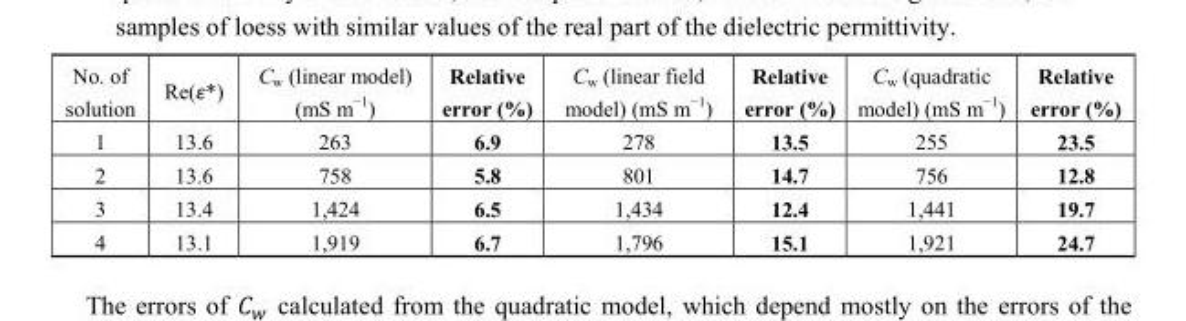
<table><thead><tr><td>No. of solution</td><td>Re(ε*)</td><td>C<sub>w</sub> (linear model) (mS m<sup>−1</sup>)</td><td>Relative error (%)</td><td>C<sub>w</sub> (linear field model) (mS m<sup>−1</sup>)</td><td>Relative error (%)</td><td>C<sub>w</sub> (quadratic model) (mS m<sup>−1</sup>)</td><td>Relative error (%)</td></tr></thead><tbody><tr><td>1</td><td>13.6</td><td>263</td><td>6.9</td><td>278</td><td>13.5</td><td>255</td><td>23.5</td></tr><tr><td>2</td><td>13.6</td><td>758</td><td>5.8</td><td>801</td><td>14.7</td><td>756</td><td>12.8</td></tr><tr><td>3</td><td>13.4</td><td>1,424</td><td>6.5</td><td>1,434</td><td>12.4</td><td>1,441</td><td>19.7</td></tr><tr><td>4</td><td>13.1</td><td>1,919</td><td>6.7</td><td>1,796</td><td>15.1</td><td>1,921</td><td>24.7</td></tr></tbody></table>